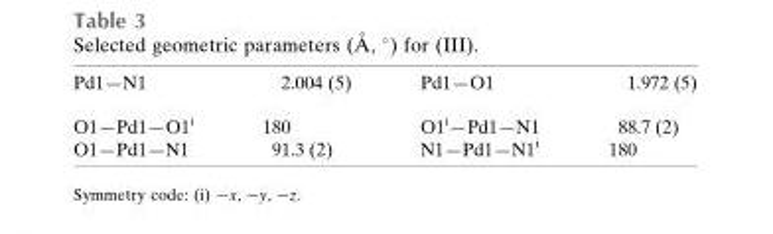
<table><tbody><tr><td>Pd1—N1</td><td>2.004 (5)</td><td>Pd1—O1</td><td>1.972 (5)</td></tr><tr><td>O1—Pd1—O1<sup>i</sup></td><td>180</td><td>O1<sup>i</sup>—Pd1—N1</td><td>88.7 (2)</td></tr><tr><td>O1—Pd1—N1</td><td>91.3 (2)</td><td>N1—Pd1—N1<sup>i</sup></td><td>180</td></tr></tbody></table>